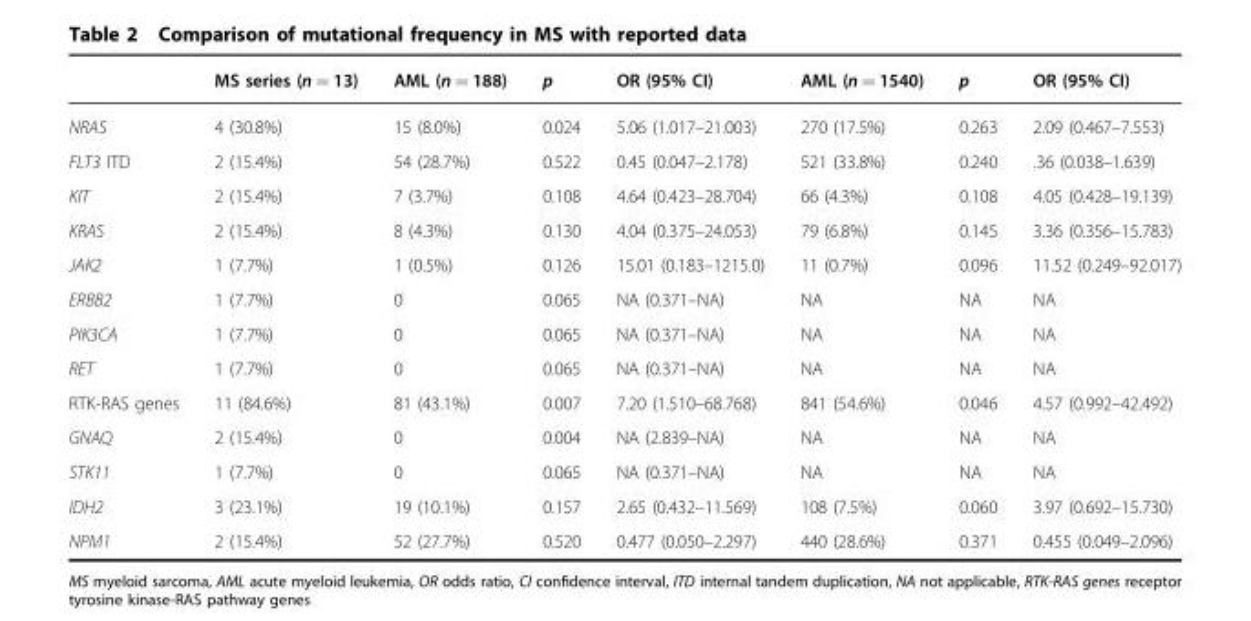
<table><thead><tr><td></td><td>MS series (n = 13)</td><td>AML (n = 188)</td><td>p</td><td>OR (95% CI)</td><td>AML (n = 1540)</td><td>p</td><td>OR (95% CI)</td></tr></thead><tbody><tr><td>NRAS</td><td>4 (30.8%)</td><td>15 (8.0%)</td><td>0.024</td><td>5.06 (1.017–21.003)</td><td>270 (17.5%)</td><td>0.263</td><td>2.09 (0.467–7.553)</td></tr><tr><td>FLT3 ITD</td><td>2 (15.4%)</td><td>54 (28.7%)</td><td>0.522</td><td>0.45 (0.047–2.178)</td><td>521 (33.8%)</td><td>0.240</td><td>.36 (0.038–1.639)</td></tr><tr><td>KIT</td><td>2 (15.4%)</td><td>7 (3.7%)</td><td>0.108</td><td>4.64 (0.423–28.704)</td><td>66 (4.3%)</td><td>0.108</td><td>4.05 (0.428–19.139)</td></tr><tr><td>KRAS</td><td>2 (15.4%)</td><td>8 (4.3%)</td><td>0.130</td><td>4.04 (0.375–24.053)</td><td>79 (6.8%)</td><td>0.145</td><td>3.36 (0.356–15.783)</td></tr><tr><td>JAK2</td><td>1 (7.7%)</td><td>1 (0.5%)</td><td>0.126</td><td>15.01 (0.183–1215.0)</td><td>11 (0.7%)</td><td>0.096</td><td>11.52 (0.249–92.017)</td></tr><tr><td>ERBB2</td><td>1 (7.7%)</td><td>0</td><td>0.065</td><td>NA (0.371–NA)</td><td>NA</td><td>NA</td><td>NA</td></tr><tr><td>PIK3CA</td><td>1 (7.7%)</td><td>0</td><td>0.065</td><td>NA (0.371–NA)</td><td>NA</td><td>NA</td><td>NA</td></tr><tr><td>RET</td><td>1 (7.7%)</td><td>0</td><td>0.065</td><td>NA (0.371–NA)</td><td>NA</td><td>NA</td><td>NA</td></tr><tr><td>RTK-RAS genes</td><td>11 (84.6%)</td><td>81 (43.1%)</td><td>0.007</td><td>7.20 (1.510–68.768)</td><td>841 (54.6%)</td><td>0.046</td><td>4.57 (0.992–42.492)</td></tr><tr><td>GNAQ</td><td>2 (15.4%)</td><td>0</td><td>0.004</td><td>NA (2.839–NA)</td><td>NA</td><td>NA</td><td>NA</td></tr><tr><td>STK11</td><td>1 (7.7%)</td><td>0</td><td>0.065</td><td>NA (0.371–NA)</td><td>NA</td><td>NA</td><td>NA</td></tr><tr><td>IDH2</td><td>3 (23.1%)</td><td>19 (10.1%)</td><td>0.157</td><td>2.65 (0.432–11.569)</td><td>108 (7.5%)</td><td>0.060</td><td>3.97 (0.692–15.730)</td></tr><tr><td>NPM1</td><td>2 (15.4%)</td><td>52 (27.7%)</td><td>0.520</td><td>0.477 (0.050–2.297)</td><td>440 (28.6%)</td><td>0.371</td><td>0.455 (0.049–2.096)</td></tr></tbody></table>